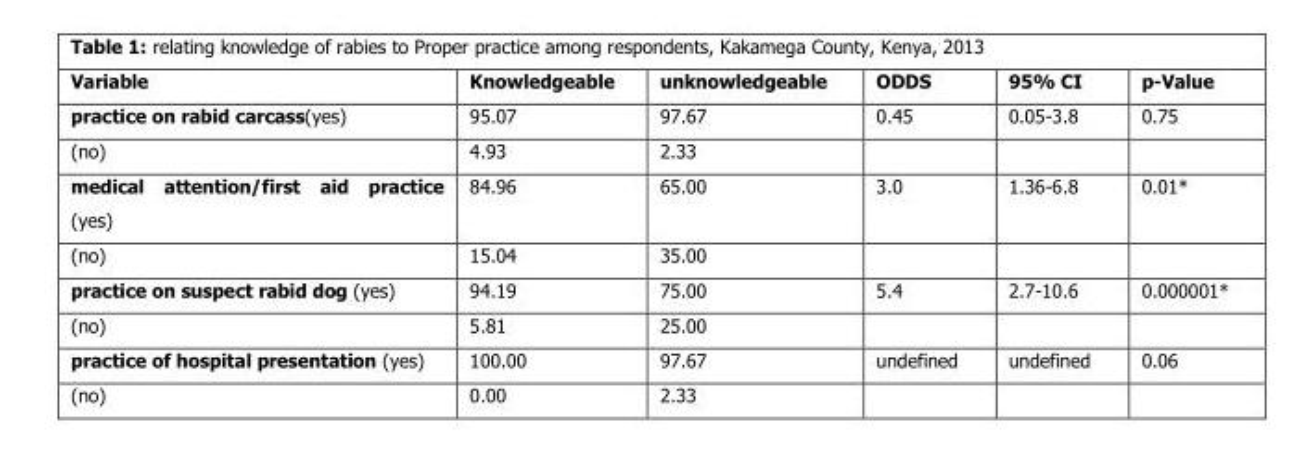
<table><thead><tr><td>Variable</td><td>Knowledgeable</td><td>unknowledgeable</td><td>ODDS</td><td>95% CI</td><td>p-Value</td></tr></thead><tbody><tr><td>practice on rabid carcass(yes)</td><td>95.07</td><td>97.67</td><td>0.45</td><td>0.05-3.8</td><td>0.75</td></tr><tr><td>(no)</td><td>4.93</td><td>2.33</td><td></td><td></td><td></td></tr><tr><td>medical attention/first aid practice (yes)</td><td>84.96</td><td>65.00</td><td>3.0</td><td>1.36-6.8</td><td>0.01*</td></tr><tr><td>(no)</td><td>15.04</td><td>35.00</td><td></td><td></td><td></td></tr><tr><td>practice on suspect rabid dog (yes)</td><td>94.19</td><td>75.00</td><td>5.4</td><td>2.7-10.6</td><td>0.000001*</td></tr><tr><td>(no)</td><td>5.81</td><td>25.00</td><td></td><td></td><td></td></tr><tr><td>practice of hospital presentation (yes)</td><td>100.00</td><td>97.67</td><td>undefined</td><td>undefined</td><td>0.06</td></tr><tr><td>(no)</td><td>0.00</td><td>2.33</td><td></td><td></td><td></td></tr></tbody></table>